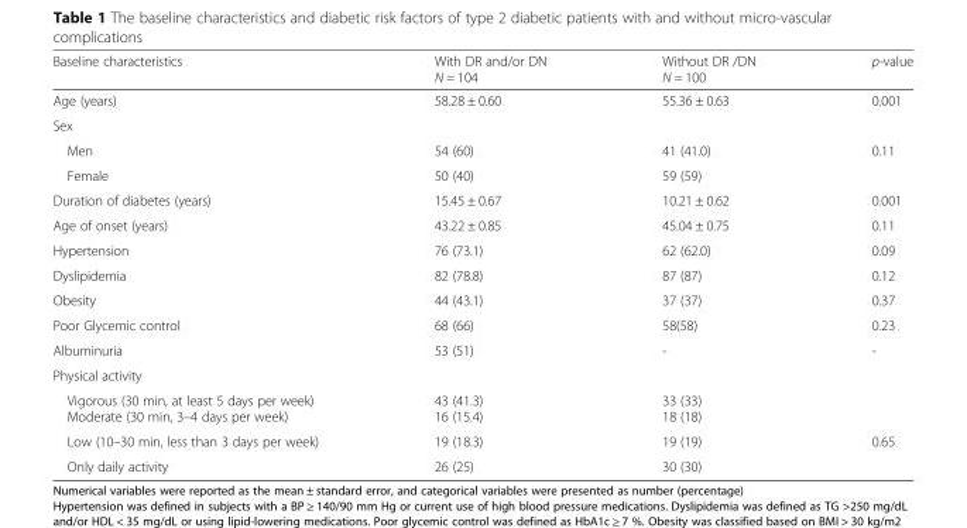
<table><thead><tr><td>Baseline characteristics</td><td>With DR and/or DN N = 104</td><td>Without DR /DN N = 100</td><td>p-value</td></tr></thead><tbody><tr><td>Age (years)</td><td>58.28 ± 0.60</td><td>55.36 ± 0.63</td><td>0.001</td></tr><tr><td colspan="4">Sex</td></tr><tr><td>Men</td><td>54 (60)</td><td>41 (41.0)</td><td>0.11</td></tr><tr><td>Female</td><td>50 (40)</td><td>59 (59)</td><td></td></tr><tr><td>Duration of diabetes (years)</td><td>15.45 ± 0.67</td><td>10.21 ± 0.62</td><td>0.001</td></tr><tr><td>Age of onset (years)</td><td>43.22 ± 0.85</td><td>45.04 ± 0.75</td><td>0.11</td></tr><tr><td>Hypertension</td><td>76 (73.1)</td><td>62 (62.0)</td><td>0.09</td></tr><tr><td>Dyslipidemia</td><td>82 (78.8)</td><td>87 (87)</td><td>0.12</td></tr><tr><td>Obesity</td><td>44 (43.1)</td><td>37 (37)</td><td>0.37</td></tr><tr><td>Poor Glycemic control</td><td>68 (66)</td><td>58(58)</td><td>0.23</td></tr><tr><td>Albuminuria</td><td>53 (51)</td><td>-</td><td>-</td></tr><tr><td colspan="4">Physical activity</td></tr><tr><td>Vigorous (30 min, at least 5 days per week) Moderate (30 min, 3–4 days per week)</td><td>43 (41.3) 16 (15.4)</td><td>33 (33) 18 (18)</td><td></td></tr><tr><td>Low (10–30 min, less than 3 days per week)</td><td>19 (18.3)</td><td>19 (19)</td><td>0.65</td></tr><tr><td>Only daily activity</td><td>26 (25)</td><td>30 (30)</td><td></td></tr></tbody></table>